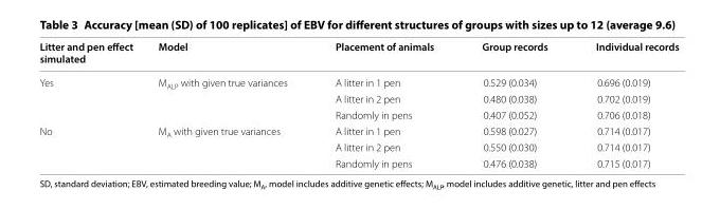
<table><thead><tr><td>Litter and pen effect simulated</td><td>Model</td><td>Placement of animals</td><td>Group records</td><td>Individual records</td></tr></thead><tbody><tr><td rowspan="3">Yes</td><td>M<sub>ALP</sub> with given true variances</td><td>A litter in 1 pen</td><td>0.529 (0.034)</td><td>0.696 (0.019)</td></tr><tr><td></td><td>A litter in 2 pen</td><td>0.480 (0.038)</td><td>0.702 (0.019)</td></tr><tr><td></td><td>Randomly in pens</td><td>0.407 (0.052)</td><td>0.706 (0.018)</td></tr><tr><td rowspan="3">No</td><td>M<sub>A</sub> with given true variances</td><td>A litter in 1 pen</td><td>0.598 (0.027)</td><td>0.714 (0.017)</td></tr><tr><td></td><td>A litter in 2 pen</td><td>0.550 (0.030)</td><td>0.714 (0.017)</td></tr><tr><td></td><td>Randomly in pens</td><td>0.476 (0.038)</td><td>0.715 (0.017)</td></tr></tbody></table>